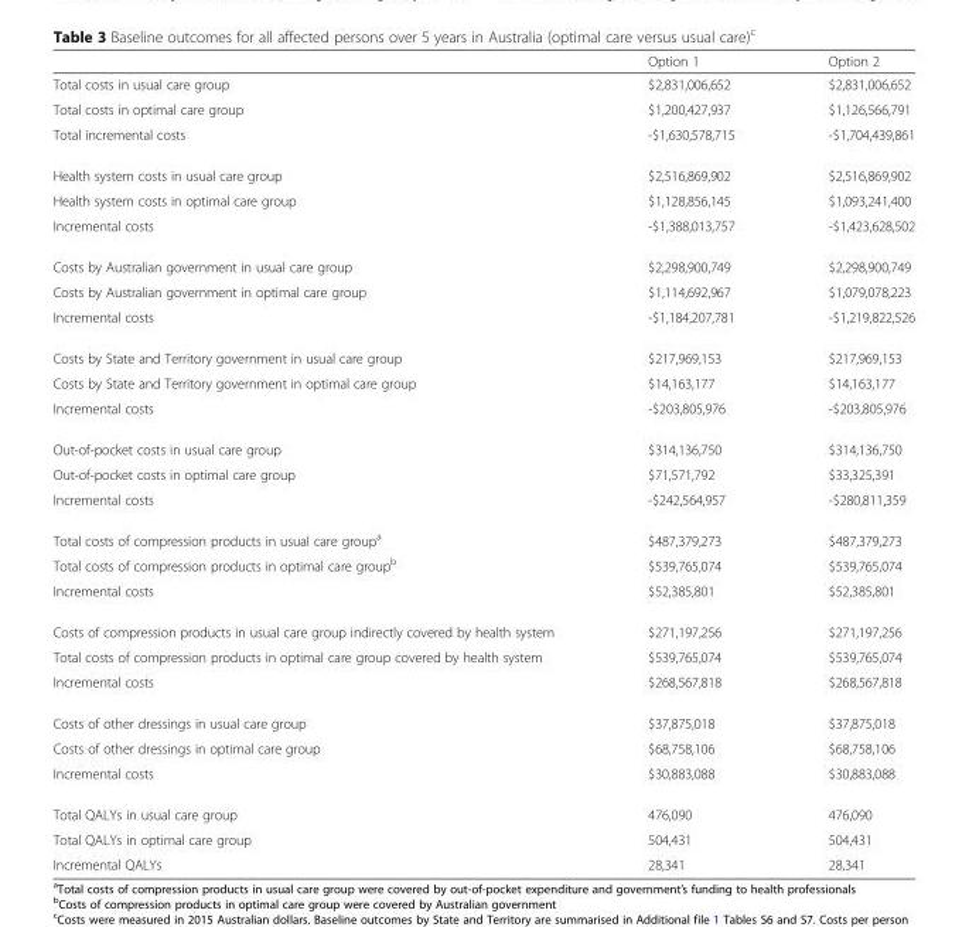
<table><thead><tr><td></td><td>Option 1</td><td>Option 2</td></tr></thead><tbody><tr><td>Total costs in usual care group</td><td>$2,831,006,652</td><td>$2,831,006,652</td></tr><tr><td>Total costs in optimal care group</td><td>$1,200,427,937</td><td>$1,126,566,791</td></tr><tr><td>Total incremental costs</td><td>-$1,630,578,715</td><td>-$1,704,439,861</td></tr><tr><td>Health system costs in usual care group</td><td>$2,516,869,902</td><td>$2,516,869,902</td></tr><tr><td>Health system costs in optimal care group</td><td>$1,128,856,145</td><td>$1,093,241,400</td></tr><tr><td>Incremental costs</td><td>-$1,388,013,757</td><td>-$1,423,628,502</td></tr><tr><td>Costs by Australian government in usual care group</td><td>$2,298,900,749</td><td>$2,298,900,749</td></tr><tr><td>Costs by Australian government in optimal care group</td><td>$1,114,692,967</td><td>$1,079,078,223</td></tr><tr><td>Incremental costs</td><td>-$1,184,207,781</td><td>-$1,219,822,526</td></tr><tr><td>Costs by State and Territory government in usual care group</td><td>$217,969,153</td><td>$217,969,153</td></tr><tr><td>Costs by State and Territory government in optimal care group</td><td>$14,163,177</td><td>$14,163,177</td></tr><tr><td>Incremental costs</td><td>-$203,805,976</td><td>-$203,805,976</td></tr><tr><td>Out-of-pocket costs in usual care group</td><td>$314,136,750</td><td>$314,136,750</td></tr><tr><td>Out-of-pocket costs in optimal care group</td><td>$71,571,792</td><td>$33,325,391</td></tr><tr><td>Incremental costs</td><td>-$242,564,957</td><td>-$280,811,359</td></tr><tr><td>Total costs of compression products in usual care group<sup>a</sup></td><td>$487,379,273</td><td>$487,379,273</td></tr><tr><td>Total costs of compression products in optimal care group<sup>b</sup></td><td>$539,765,074</td><td>$539,765,074</td></tr><tr><td>Incremental costs</td><td>$52,385,801</td><td>$52,385,801</td></tr><tr><td>Costs of compression products in usual care group indirectly covered by health system</td><td>$271,197,256</td><td>$271,197,256</td></tr><tr><td>Total costs of compression products in optimal care group covered by health system</td><td>$539,765,074</td><td>$539,765,074</td></tr><tr><td>Incremental costs</td><td>$268,567,818</td><td>$268,567,818</td></tr><tr><td>Costs of other dressings in usual care group</td><td>$37,875,018</td><td>$37,875,018</td></tr><tr><td>Costs of other dressings in optimal care group</td><td>$68,758,106</td><td>$68,758,106</td></tr><tr><td>Incremental costs</td><td>$30,883,088</td><td>$30,883,088</td></tr><tr><td>Total QALYs in usual care group</td><td>476,090</td><td>476,090</td></tr><tr><td>Total QALYs in optimal care group</td><td>504,431</td><td>504,431</td></tr><tr><td>Incremental QALYs</td><td>28,341</td><td>28,341</td></tr></tbody></table>